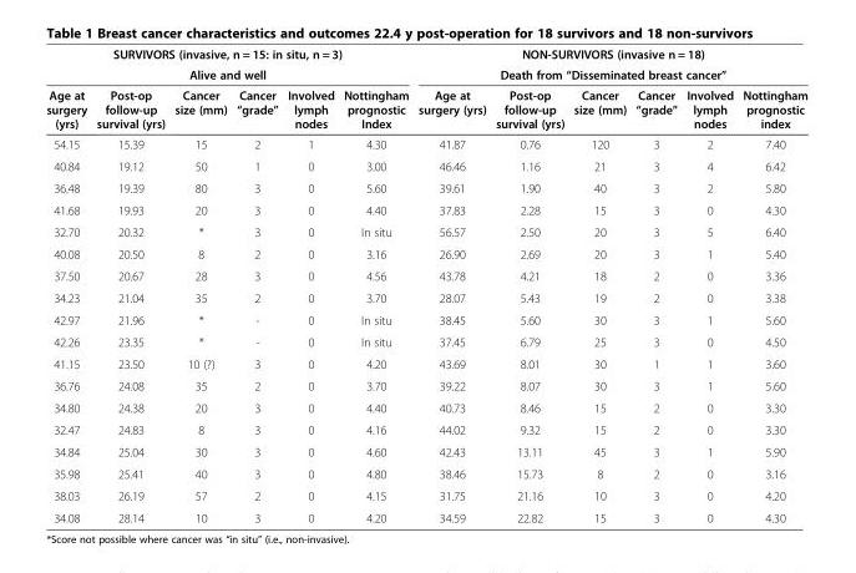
<table><thead><tr><td rowspan="2" colspan="6">SURVIVORS (invasive, n = 15: in situ, n = 3) Alive and well</td><td rowspan="2" colspan="6">NON-SURVIVORS (invasive n = 18) Death from “Disseminated breast cancer”</td></tr><tr></tr><tr><td>Age at surgery (yrs)</td><td>Post-op follow-up survival (yrs)</td><td>Cancer size (mm)</td><td>Cancer “grade”</td><td>Involved lymph nodes</td><td>Nottingham prognostic Index</td><td>Age at surgery (yrs)</td><td>Post-op follow-up survival (yrs)</td><td>Cancer size (mm)</td><td>Cancer “grade”</td><td>Involved lymph nodes</td><td>Nottingham prognostic index</td></tr></thead><tbody><tr><td>54.15</td><td>15.39</td><td>15</td><td>2</td><td>1</td><td>4.30</td><td>41.87</td><td>0.76</td><td>120</td><td>3</td><td>2</td><td>7.40</td></tr><tr><td>40.84</td><td>19.12</td><td>50</td><td>1</td><td>0</td><td>3.00</td><td>46.46</td><td>1.16</td><td>21</td><td>3</td><td>4</td><td>6.42</td></tr><tr><td>36.48</td><td>19.39</td><td>80</td><td>3</td><td>0</td><td>5.60</td><td>39.61</td><td>1.90</td><td>40</td><td>3</td><td>2</td><td>5.80</td></tr><tr><td>41.68</td><td>19.93</td><td>20</td><td>3</td><td>0</td><td>4.40</td><td>37.83</td><td>2.28</td><td>15</td><td>3</td><td>0</td><td>4.30</td></tr><tr><td>32.70</td><td>20.32</td><td>*</td><td>3</td><td>0</td><td>In situ</td><td>56.57</td><td>2.50</td><td>20</td><td>3</td><td>5</td><td>6.40</td></tr><tr><td>40.08</td><td>20.50</td><td>8</td><td>2</td><td>0</td><td>3.16</td><td>26.90</td><td>2.69</td><td>20</td><td>3</td><td>1</td><td>5.40</td></tr><tr><td>37.50</td><td>20.67</td><td>28</td><td>3</td><td>0</td><td>4.56</td><td>43.78</td><td>4.21</td><td>18</td><td>2</td><td>0</td><td>3.36</td></tr><tr><td>34.23</td><td>21.04</td><td>35</td><td>2</td><td>0</td><td>3.70</td><td>28.07</td><td>5.43</td><td>19</td><td>2</td><td>0</td><td>3.38</td></tr><tr><td>42.97</td><td>21.96</td><td>*</td><td>-</td><td>0</td><td>In situ</td><td>38.45</td><td>5.60</td><td>30</td><td>3</td><td>1</td><td>5.60</td></tr><tr><td>42.26</td><td>23.35</td><td>*</td><td>-</td><td>0</td><td>In situ</td><td>37.45</td><td>6.79</td><td>25</td><td>3</td><td>0</td><td>4.50</td></tr><tr><td>41.15</td><td>23.50</td><td>10 (?)</td><td>3</td><td>0</td><td>4.20</td><td>43.69</td><td>8.01</td><td>30</td><td>1</td><td>1</td><td>3.60</td></tr><tr><td>36.76</td><td>24.08</td><td>35</td><td>2</td><td>0</td><td>3.70</td><td>39.22</td><td>8.07</td><td>30</td><td>3</td><td>1</td><td>5.60</td></tr><tr><td>34.80</td><td>24.38</td><td>20</td><td>3</td><td>0</td><td>4.40</td><td>40.73</td><td>8.46</td><td>15</td><td>2</td><td>0</td><td>3.30</td></tr><tr><td>32.47</td><td>24.83</td><td>8</td><td>3</td><td>0</td><td>4.16</td><td>44.02</td><td>9.32</td><td>15</td><td>2</td><td>0</td><td>3.30</td></tr><tr><td>34.84</td><td>25.04</td><td>30</td><td>3</td><td>0</td><td>4.60</td><td>42.43</td><td>13.11</td><td>45</td><td>3</td><td>1</td><td>5.90</td></tr><tr><td>35.98</td><td>25.41</td><td>40</td><td>3</td><td>0</td><td>4.80</td><td>38.46</td><td>15.73</td><td>8</td><td>2</td><td>0</td><td>3.16</td></tr><tr><td>38.03</td><td>26.19</td><td>57</td><td>2</td><td>0</td><td>4.15</td><td>31.75</td><td>21.16</td><td>10</td><td>3</td><td>0</td><td>4.20</td></tr><tr><td>34.08</td><td>28.14</td><td>10</td><td>3</td><td>0</td><td>4.20</td><td>34.59</td><td>22.82</td><td>15</td><td>3</td><td>0</td><td>4.30</td></tr></tbody></table>